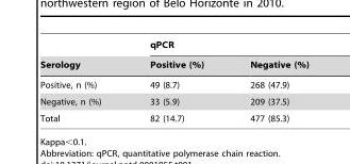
<table><thead><tr><td rowspan="2">Serology</td><td colspan="2">qPCR</td></tr><tr><td>Positive (%)</td><td>Negative (%)</td></tr></thead><tbody><tr><td>Positive, n (%)</td><td>49 (8.7)</td><td>268 (47.9)</td></tr><tr><td>Negative, n (%)</td><td>33 (5.9)</td><td>209 (37.5)</td></tr><tr><td>Total</td><td>82 (14.7)</td><td>477 (85.3)</td></tr></tbody></table>